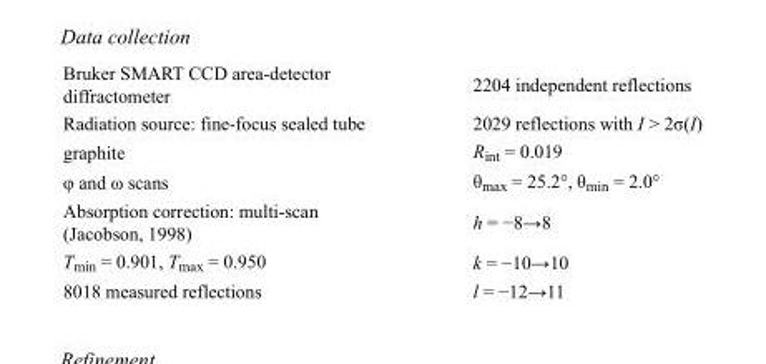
<table><tbody><tr><td>Bruker SMART CCD area-detector diffractometer</td><td>2204 independent reflections</td></tr><tr><td>Radiation source: fine-focus sealed tube</td><td>2029 reflections with I &gt; 2σ(I)</td></tr><tr><td>graphite</td><td>R<sub>int</sub> = 0.019</td></tr><tr><td>φ and ω scans</td><td>θ<sub>max</sub> = 25.2°, θ<sub>min</sub> = 2.0°</td></tr><tr><td>Absorption correction: multi-scan (Jacobson, 1998)</td><td>h = −8→8</td></tr><tr><td>T<sub>min</sub> = 0.901, T<sub>max</sub> = 0.950</td><td>k = −10→10</td></tr><tr><td>8018 measured reflections</td><td>l = −12→11</td></tr></tbody></table>